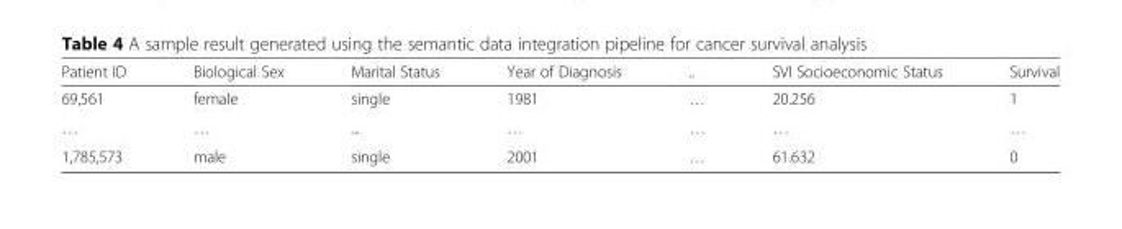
<table><thead><tr><td>Patient ID</td><td>Biological Sex</td><td>Marital Status</td><td>Year of Diagnosis</td><td>..</td><td>SVI Socioeconomic Status</td><td>Survival</td></tr></thead><tbody><tr><td>69,561</td><td>female</td><td>single</td><td>1981</td><td>…</td><td>20.256</td><td>1</td></tr><tr><td>…</td><td>…</td><td>...</td><td>…</td><td>…</td><td>…</td><td>…</td></tr><tr><td>1,785,573</td><td>male</td><td>single</td><td>2001</td><td>…</td><td>61.632</td><td>0</td></tr></tbody></table>